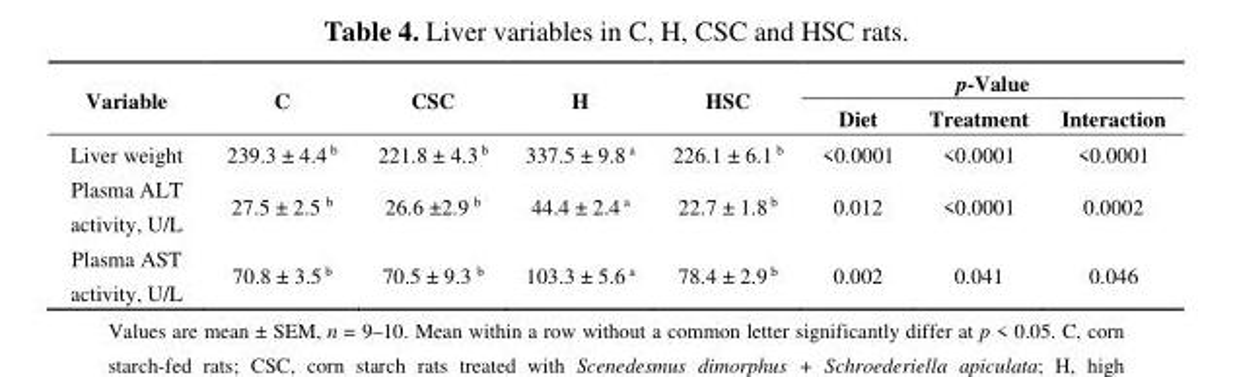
<table><thead><tr><td rowspan="2">Variable</td><td rowspan="2">C</td><td rowspan="2">CSC</td><td rowspan="2">H</td><td rowspan="2">HSC</td><td colspan="3">p-Value</td></tr><tr><td>Diet</td><td>Treatment</td><td>Interaction</td></tr></thead><tbody><tr><td>Liver weight</td><td>239.3 ± 4.4 <sup>b</sup></td><td>221.8 ± 4.3 <sup>b</sup></td><td>337.5 ± 9.8 <sup>a</sup></td><td>226.1 ± 6.1 <sup>b</sup></td><td>&lt;0.0001</td><td>&lt;0.0001</td><td>&lt;0.0001</td></tr><tr><td>Plasma ALT activity, U/L</td><td>27.5 ± 2.5 <sup>b</sup></td><td>26.6 ±2.9 <sup>b</sup></td><td>44.4 ± 2.4 <sup>a</sup></td><td>22.7 ± 1.8 <sup>b</sup></td><td>0.012</td><td>&lt;0.0001</td><td>0.0002</td></tr><tr><td>Plasma AST activity, U/L</td><td>70.8 ± 3.5 <sup>b</sup></td><td>70.5 ± 9.3 <sup>b</sup></td><td>103.3 ± 5.6 <sup>a</sup></td><td>78.4 ± 2.9 <sup>b</sup></td><td>0.002</td><td>0.041</td><td>0.046</td></tr></tbody></table>